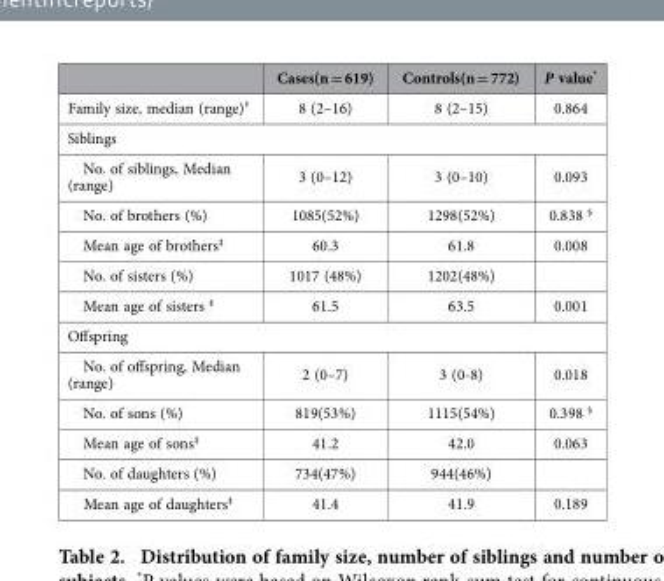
<table><thead><tr><td></td><td>Cases(n = 619)</td><td>Controls(n = 772)</td><td>P value*</td></tr></thead><tbody><tr><td>Family size, median (range)†</td><td>8 (2–16)</td><td>8 (2–15)</td><td>0.864</td></tr><tr><td colspan="4">Siblings</td></tr><tr><td>No. of siblings, Median (range)</td><td>3 (0–12)</td><td>3 (0–10)</td><td>0.093</td></tr><tr><td>No. of brothers (%)</td><td>1085(52%)</td><td>1298(52%)</td><td>0.838 §</td></tr><tr><td>Mean age of brothers‡</td><td>60.3</td><td>61.8</td><td>0.008</td></tr><tr><td>No. of sisters (%)</td><td>1017 (48%)</td><td>1202(48%)</td><td></td></tr><tr><td>Mean age of sisters ‡</td><td>61.5</td><td>63.5</td><td>0.001</td></tr><tr><td colspan="4">Offspring</td></tr><tr><td>No. of offspring, Median (range)</td><td>2 (0–7)</td><td>3 (0-8)</td><td>0.018</td></tr><tr><td>No. of sons (%)</td><td>819(53%)</td><td>1115(54%)</td><td>0.398 §</td></tr><tr><td>Mean age of sons‡</td><td>41.2</td><td>42.0</td><td>0.063</td></tr><tr><td>No. of daughters (%)</td><td>734(47%)</td><td>944(46%)</td><td></td></tr><tr><td>Mean age of daughters‡</td><td>41.4</td><td>41.9</td><td>0.189</td></tr></tbody></table>